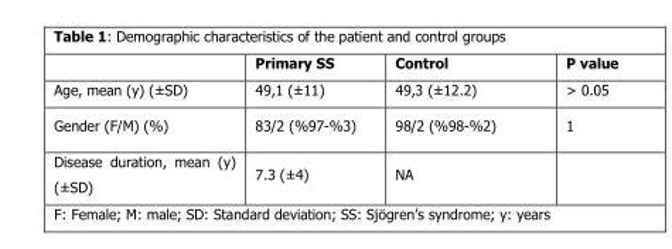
<table><thead><tr><td></td><td>Primary SS</td><td>Control</td><td>P value</td></tr></thead><tbody><tr><td>Age, mean (y) (±SD)</td><td>49,1 (±11)</td><td>49,3 (±12.2)</td><td>&gt; 0.05</td></tr><tr><td>Gender (F/M) (%)</td><td>83/2 (%97-%3)</td><td>98/2 (%98-%2)</td><td>1</td></tr><tr><td>Disease duration, mean (y) (±SD)</td><td>7.3 (±4)</td><td>NA</td><td></td></tr></tbody></table>